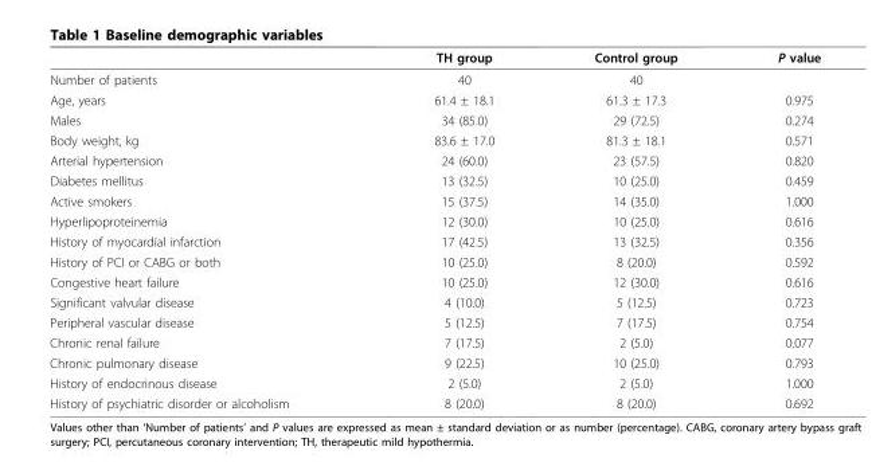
<table><thead><tr><td></td><td>TH group</td><td>Control group</td><td>P value</td></tr></thead><tbody><tr><td>Number of patients</td><td>40</td><td>40</td><td></td></tr><tr><td>Age, years</td><td>61.4 ± 18.1</td><td>61.3 ± 17.3</td><td>0.975</td></tr><tr><td>Males</td><td>34 (85.0)</td><td>29 (72.5)</td><td>0.274</td></tr><tr><td>Body weight, kg</td><td>83.6 ± 17.0</td><td>81.3 ± 18.1</td><td>0.571</td></tr><tr><td>Arterial hypertension</td><td>24 (60.0)</td><td>23 (57.5)</td><td>0.820</td></tr><tr><td>Diabetes mellitus</td><td>13 (32.5)</td><td>10 (25.0)</td><td>0.459</td></tr><tr><td>Active smokers</td><td>15 (37.5)</td><td>14 (35.0)</td><td>1.000</td></tr><tr><td>Hyperlipoproteinemia</td><td>12 (30.0)</td><td>10 (25.0)</td><td>0.616</td></tr><tr><td>History of myocardial infarction</td><td>17 (42.5)</td><td>13 (32.5)</td><td>0.356</td></tr><tr><td>History of PCI or CABG or both</td><td>10 (25.0)</td><td>8 (20.0)</td><td>0.592</td></tr><tr><td>Congestive heart failure</td><td>10 (25.0)</td><td>12 (30.0)</td><td>0.616</td></tr><tr><td>Significant valvular disease</td><td>4 (10.0)</td><td>5 (12.5)</td><td>0.723</td></tr><tr><td>Peripheral vascular disease</td><td>5 (12.5)</td><td>7 (17.5)</td><td>0.754</td></tr><tr><td>Chronic renal failure</td><td>7 (17.5)</td><td>2 (5.0)</td><td>0.077</td></tr><tr><td>Chronic pulmonary disease</td><td>9 (22.5)</td><td>10 (25.0)</td><td>0.793</td></tr><tr><td>History of endocrinous disease</td><td>2 (5.0)</td><td>2 (5.0)</td><td>1.000</td></tr><tr><td>History of psychiatric disorder or alcoholism</td><td>8 (20.0)</td><td>8 (20.0)</td><td>0.692</td></tr></tbody></table>